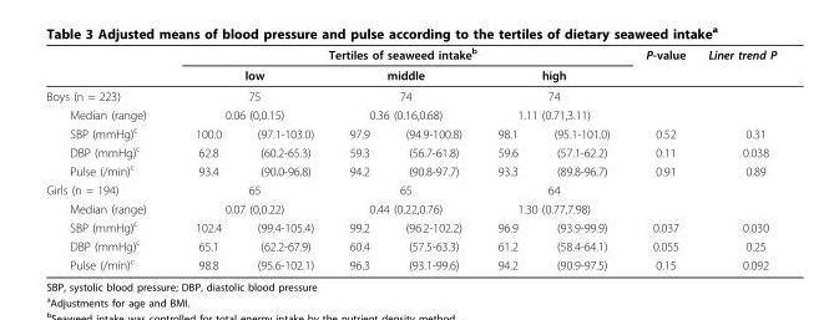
<table><thead><tr><td rowspan="5">Boys (n = 223) Median (range) SBP (mmHg)<sup>c</sup></td><td colspan="6">Tertiles of seaweed intake<sup>b</sup></td><td rowspan="5">P-value 0.52</td><td rowspan="5">Liner trend P 0.31</td></tr><tr><td rowspan="3" colspan="2">low 75 0.06 (0,0.15)</td><td rowspan="3" colspan="2">middle 74 0.36 (0.16,0.68)</td><td rowspan="3" colspan="2">high 74 1.11 (0.71,3.11)</td></tr><tr></tr><tr></tr><tr><td>100.0</td><td>(97.1-103.0)</td><td>97.9</td><td>(94.9-100.8)</td><td>98.1</td><td>(95.1-101.0)</td></tr></thead><tbody><tr><td>DBP (mmHg)<sup>c</sup></td><td>62.8</td><td>(60.2-65.3)</td><td>59.3</td><td>(56.7-61.8)</td><td>59.6</td><td>(57.1-62.2)</td><td>0.11</td><td>0.038</td></tr><tr><td>Pulse (/min)<sup>c</sup></td><td>93.4</td><td>(90.0-96.8)</td><td>94.2</td><td>(90.8-97.7)</td><td>93.3</td><td>(89.8-96.7)</td><td>0.91</td><td>0.89</td></tr><tr><td>Girls (n = 194)</td><td colspan="2">65</td><td colspan="2">65</td><td colspan="2">64</td><td></td><td></td></tr><tr><td>Median (range)</td><td colspan="2">0.07 (0,0.22)</td><td colspan="2">0.44 (0.22,0.76)</td><td colspan="2">1.30 (0.77,7.98)</td><td></td><td></td></tr><tr><td>SBP (mmHg)<sup>c</sup></td><td>102.4</td><td>(99.4-105.4)</td><td>99.2</td><td>(96.2-102.2)</td><td>96.9</td><td>(93.9-99.9)</td><td>0.037</td><td>0.030</td></tr><tr><td>DBP (mmHg)<sup>c</sup></td><td>65.1</td><td>(62.2-67.9)</td><td>60.4</td><td>(57.5-63.3)</td><td>61.2</td><td>(58.4-64.1)</td><td>0.055</td><td>0.25</td></tr><tr><td>Pulse (/min)<sup>c</sup></td><td>98.8</td><td>(95.6-102.1)</td><td>96.3</td><td>(93.1-99.6)</td><td>94.2</td><td>(90.9-97.5)</td><td>0.15</td><td>0.092</td></tr></tbody></table>